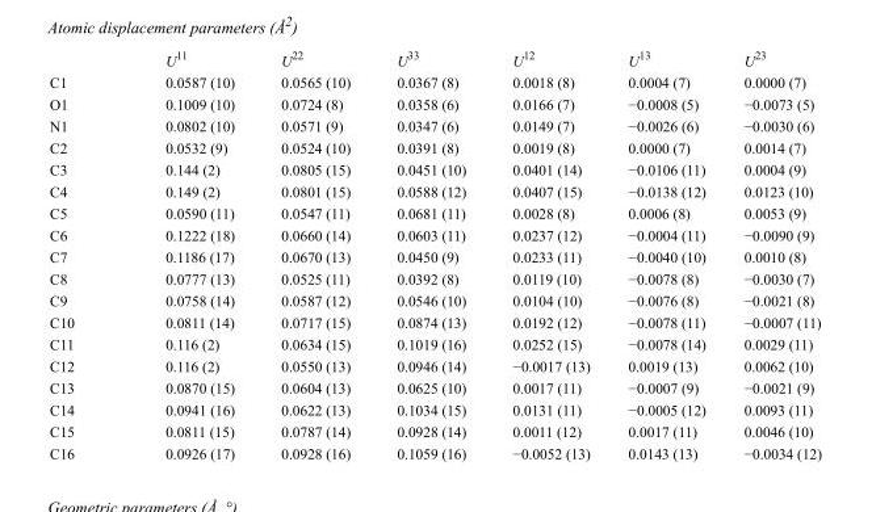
<table><thead><tr><td></td><td>U<sup>11</sup></td><td>U<sup>22</sup></td><td>U<sup>33</sup></td><td>U<sup>12</sup></td><td>U<sup>13</sup></td><td>U<sup>23</sup></td></tr></thead><tbody><tr><td>C1</td><td>0.0587 (10)</td><td>0.0565 (10)</td><td>0.0367 (8)</td><td>0.0018 (8)</td><td>0.0004 (7)</td><td>0.0000 (7)</td></tr><tr><td>O1</td><td>0.1009 (10)</td><td>0.0724 (8)</td><td>0.0358 (6)</td><td>0.0166 (7)</td><td>−0.0008 (5)</td><td>−0.0073 (5)</td></tr><tr><td>N1</td><td>0.0802 (10)</td><td>0.0571 (9)</td><td>0.0347 (6)</td><td>0.0149 (7)</td><td>−0.0026 (6)</td><td>−0.0030 (6)</td></tr><tr><td>C2</td><td>0.0532 (9)</td><td>0.0524 (10)</td><td>0.0391 (8)</td><td>0.0019 (8)</td><td>0.0000 (7)</td><td>0.0014 (7)</td></tr><tr><td>C3</td><td>0.144 (2)</td><td>0.0805 (15)</td><td>0.0451 (10)</td><td>0.0401 (14)</td><td>−0.0106 (11)</td><td>0.0004 (9)</td></tr><tr><td>C4</td><td>0.149 (2)</td><td>0.0801 (15)</td><td>0.0588 (12)</td><td>0.0407 (15)</td><td>−0.0138 (12)</td><td>0.0123 (10)</td></tr><tr><td>C5</td><td>0.0590 (11)</td><td>0.0547 (11)</td><td>0.0681 (11)</td><td>0.0028 (8)</td><td>0.0006 (8)</td><td>0.0053 (9)</td></tr><tr><td>C6</td><td>0.1222 (18)</td><td>0.0660 (14)</td><td>0.0603 (11)</td><td>0.0237 (12)</td><td>−0.0004 (11)</td><td>−0.0090 (9)</td></tr><tr><td>C7</td><td>0.1186 (17)</td><td>0.0670 (13)</td><td>0.0450 (9)</td><td>0.0233 (11)</td><td>−0.0040 (10)</td><td>0.0010 (8)</td></tr><tr><td>C8</td><td>0.0777 (13)</td><td>0.0525 (11)</td><td>0.0392 (8)</td><td>0.0119 (10)</td><td>−0.0078 (8)</td><td>−0.0030 (7)</td></tr><tr><td>C9</td><td>0.0758 (14)</td><td>0.0587 (12)</td><td>0.0546 (10)</td><td>0.0104 (10)</td><td>−0.0076 (8)</td><td>−0.0021 (8)</td></tr><tr><td>C10</td><td>0.0811 (14)</td><td>0.0717 (15)</td><td>0.0874 (13)</td><td>0.0192 (12)</td><td>−0.0078 (11)</td><td>−0.0007 (11)</td></tr><tr><td>C11</td><td>0.116 (2)</td><td>0.0634 (15)</td><td>0.1019 (16)</td><td>0.0252 (15)</td><td>−0.0078 (14)</td><td>0.0029 (11)</td></tr><tr><td>C12</td><td>0.116 (2)</td><td>0.0550 (13)</td><td>0.0946 (14)</td><td>−0.0017 (13)</td><td>0.0019 (13)</td><td>0.0062 (10)</td></tr><tr><td>C13</td><td>0.0870 (15)</td><td>0.0604 (13)</td><td>0.0625 (10)</td><td>0.0017 (11)</td><td>−0.0007 (9)</td><td>−0.0021 (9)</td></tr><tr><td>C14</td><td>0.0941 (16)</td><td>0.0622 (13)</td><td>0.1034 (15)</td><td>0.0131 (11)</td><td>−0.0005 (12)</td><td>0.0093 (11)</td></tr><tr><td>C15</td><td>0.0811 (15)</td><td>0.0787 (14)</td><td>0.0928 (14)</td><td>0.0011 (12)</td><td>0.0017 (11)</td><td>0.0046 (10)</td></tr><tr><td>C16</td><td>0.0926 (17)</td><td>0.0928 (16)</td><td>0.1059 (16)</td><td>−0.0052 (13)</td><td>0.0143 (13)</td><td>−0.0034 (12)</td></tr></tbody></table>